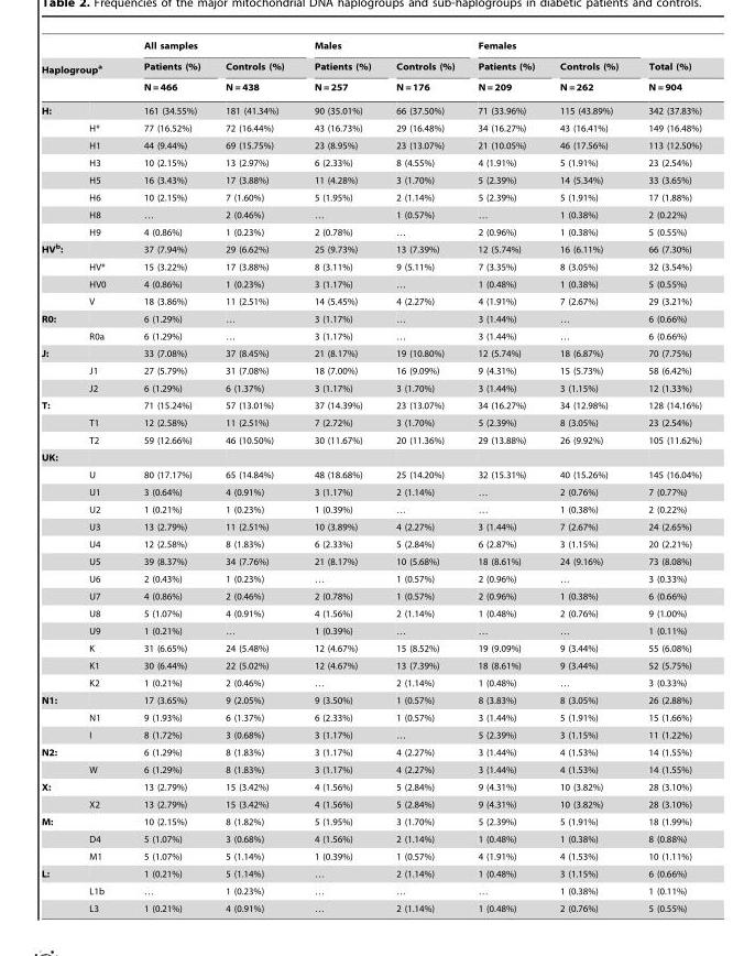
<table><thead><tr><td></td><td></td><td colspan="2">All samples</td><td colspan="2">Males</td><td colspan="2">Females</td><td rowspan="3">Total (%) N = 904</td></tr><tr><td colspan="2">Haplogroup<sup>a</sup></td><td rowspan="2">Patients (%) N = 466</td><td rowspan="2">Controls (%) N = 438</td><td rowspan="2">Patients (%) N = 257</td><td rowspan="2">Controls (%) N = 176</td><td rowspan="2">Patients (%) N = 209</td><td rowspan="2">Controls (%) N = 262</td></tr><tr><td></td><td></td></tr></thead><tbody><tr><td rowspan="8">H:</td><td></td><td>161 (34.55%)</td><td>181 (41.34%)</td><td>90 (35.01%)</td><td>66 (37.50%)</td><td>71 (33.96%)</td><td>115 (43.89%)</td><td>342 (37.83%)</td></tr><tr><td>H*</td><td>77 (16.52%)</td><td>72 (16.44%)</td><td>43 (16.73%)</td><td>29 (16.48%)</td><td>34 (16.27%)</td><td>43 (16.41%)</td><td>149 (16.48%)</td></tr><tr><td>H1</td><td>44 (9.44%)</td><td>69 (15.75%)</td><td>23 (8.95%)</td><td>23 (13.07%)</td><td>21 (10.05%)</td><td>46 (17.56%)</td><td>113 (12.50%)</td></tr><tr><td>H3</td><td>10 (2.15%)</td><td>13 (2.97%)</td><td>6 (2.33%)</td><td>8 (4.55%)</td><td>4 (1.91%)</td><td>5 (1.91%)</td><td>23 (2.54%)</td></tr><tr><td>H5</td><td>16 (3.43%)</td><td>17 (3.88%)</td><td>11 (4.28%)</td><td>3 (1.70%)</td><td>5 (2.39%)</td><td>14 (5.34%)</td><td>33 (3.65%)</td></tr><tr><td>H6</td><td>10 (2.15%)</td><td>7 (1.60%)</td><td>5 (1.95%)</td><td>2 (1.14%)</td><td>5 (2.39%)</td><td>5 (1.91%)</td><td>17 (1.88%)</td></tr><tr><td>H8</td><td>…</td><td>2 (0.46%)</td><td>…</td><td>1 (0.57%)</td><td>…</td><td>1 (0.38%)</td><td>2 (0.22%)</td></tr><tr><td>H9</td><td>4 (0.86%)</td><td>1 (0.23%)</td><td>2 (0.78%)</td><td>…</td><td>2 (0.96%)</td><td>1 (0.38%)</td><td>5 (0.55%)</td></tr><tr><td rowspan="4">HVb:</td><td></td><td>37 (7.94%)</td><td>29 (6.62%)</td><td>25 (9.73%)</td><td>13 (7.39%)</td><td>12 (5.74%)</td><td>16 (6.11%)</td><td>66 (7.30%)</td></tr><tr><td>HV*</td><td>15 (3.22%)</td><td>17 (3.88%)</td><td>8 (3.11%)</td><td>9 (5.11%)</td><td>7 (3.35%)</td><td>8 (3.05%)</td><td>32 (3.54%)</td></tr><tr><td>HV0</td><td>4 (0.86%)</td><td>1 (0.23%)</td><td>3 (1.17%)</td><td>…</td><td>1 (0.48%)</td><td>1 (0.38%)</td><td>5 (0.55%)</td></tr><tr><td>V</td><td>18 (3.86%)</td><td>11 (2.51%)</td><td>14 (5.45%)</td><td>4 (2.27%)</td><td>4 (1.91%)</td><td>7 (2.67%)</td><td>29 (3.21%)</td></tr><tr><td rowspan="2">R0:</td><td></td><td>6 (1.29%)</td><td>…</td><td>3 (1.17%)</td><td>…</td><td>3 (1.44%)</td><td>…</td><td>6 (0.66%)</td></tr><tr><td>R0a</td><td>6 (1.29%)</td><td>…</td><td>3 (1.17%)</td><td>…</td><td>3 (1.44%)</td><td>…</td><td>6 (0.66%)</td></tr><tr><td rowspan="3">J:</td><td></td><td>33 (7.08%)</td><td>37 (8.45%)</td><td>21 (8.17%)</td><td>19 (10.80%)</td><td>12 (5.74%)</td><td>18 (6.87%)</td><td>70 (7.75%)</td></tr><tr><td>J1</td><td>27 (5.79%)</td><td>31 (7.08%)</td><td>18 (7.00%)</td><td>16 (9.09%)</td><td>9 (4.31%)</td><td>15 (5.73%)</td><td>58 (6.42%)</td></tr><tr><td>J2</td><td>6 (1.29%)</td><td>6 (1.37%)</td><td>3 (1.17%)</td><td>3 (1.70%)</td><td>3 (1.44%)</td><td>3 (1.15%)</td><td>12 (1.33%)</td></tr><tr><td rowspan="3">T:</td><td></td><td>71 (15.24%)</td><td>57 (13.01%)</td><td>37 (14.39%)</td><td>23 (13.07%)</td><td>34 (16.27%)</td><td>34 (12.98%)</td><td>128 (14.16%)</td></tr><tr><td>T1</td><td>12 (2.58%)</td><td>11 (2.51%)</td><td>7 (2.72%)</td><td>3 (1.70%)</td><td>5 (2.39%)</td><td>8 (3.05%)</td><td>23 (2.54%)</td></tr><tr><td>T2</td><td>59 (12.66%)</td><td>46 (10.50%)</td><td>30 (11.67%)</td><td>20 (11.36%)</td><td>29 (13.88%)</td><td>26 (9.92%)</td><td>105 (11.62%)</td></tr><tr><td colspan="9">UK:</td></tr><tr><td></td><td>U</td><td>80 (17.17%)</td><td>65 (14.84%)</td><td>48 (18.68%)</td><td>25 (14.20%)</td><td>32 (15.31%)</td><td>40 (15.26%)</td><td>145 (16.04%)</td></tr><tr><td></td><td>U1</td><td>3 (0.64%)</td><td>4 (0.91%)</td><td>3 (1.17%)</td><td>2 (1.14%)</td><td>…</td><td>2 (0.76%)</td><td>7 (0.77%)</td></tr><tr><td></td><td>U2</td><td>1 (0.21%)</td><td>1 (0.23%)</td><td>1 (0.39%)</td><td>…</td><td>…</td><td>1 (0.38%)</td><td>2 (0.22%)</td></tr><tr><td></td><td>U3</td><td>13 (2.79%)</td><td>11 (2.51%)</td><td>10 (3.89%)</td><td>4 (2.27%)</td><td>3 (1.44%)</td><td>7 (2.67%)</td><td>24 (2.65%)</td></tr><tr><td></td><td>U4</td><td>12 (2.58%)</td><td>8 (1.83%)</td><td>6 (2.33%)</td><td>5 (2.84%)</td><td>6 (2.87%)</td><td>3 (1.15%)</td><td>20 (2.21%)</td></tr><tr><td></td><td>U5</td><td>39 (8.37%)</td><td>34 (7.76%)</td><td>21 (8.17%)</td><td>10 (5.68%)</td><td>18 (8.61%)</td><td>24 (9.16%)</td><td>73 (8.08%)</td></tr><tr><td></td><td>U6</td><td>2 (0.43%)</td><td>1 (0.23%)</td><td>…</td><td>1 (0.57%)</td><td>2 (0.96%)</td><td>…</td><td>3 (0.33%)</td></tr><tr><td></td><td>U7</td><td>4 (0.86%)</td><td>2 (0.46%)</td><td>2 (0.78%)</td><td>1 (0.57%)</td><td>2 (0.96%)</td><td>1 (0.38%)</td><td>6 (0.66%)</td></tr><tr><td></td><td>U8</td><td>5 (1.07%)</td><td>4 (0.91%)</td><td>4 (1.56%)</td><td>2 (1.14%)</td><td>1 (0.48%)</td><td>2 (0.76%)</td><td>9 (1.00%)</td></tr><tr><td></td><td>U9</td><td>1 (0.21%)</td><td>…</td><td>1 (0.39%)</td><td>…</td><td>…</td><td>…</td><td>1 (0.11%)</td></tr><tr><td></td><td>K</td><td>31 (6.65%)</td><td>24 (5.48%)</td><td>12 (4.67%)</td><td>15 (8.52%)</td><td>19 (9.09%)</td><td>9 (3.44%)</td><td>55 (6.08%)</td></tr><tr><td></td><td>K1</td><td>30 (6.44%)</td><td>22 (5.02%)</td><td>12 (4.67%)</td><td>13 (7.39%)</td><td>18 (8.61%)</td><td>9 (3.44%)</td><td>52 (5.75%)</td></tr><tr><td></td><td>K2</td><td>1 (0.21%)</td><td>2 (0.46%)</td><td>…</td><td>2 (1.14%)</td><td>1 (0.48%)</td><td>…</td><td>3 (0.33%)</td></tr><tr><td rowspan="3">N1:</td><td></td><td>17 (3.65%)</td><td>9 (2.05%)</td><td>9 (3.50%)</td><td>1 (0.57%)</td><td>8 (3.83%)</td><td>8 (3.05%)</td><td>26 (2.88%)</td></tr><tr><td>N1</td><td>9 (1.93%)</td><td>6 (1.37%)</td><td>6 (2.33%)</td><td>1 (0.57%)</td><td>3 (1.44%)</td><td>5 (1.91%)</td><td>15 (1.66%)</td></tr><tr><td>I</td><td>8 (1.72%)</td><td>3 (0.68%)</td><td>3 (1.17%)</td><td>…</td><td>5 (2.39%)</td><td>3 (1.15%)</td><td>11 (1.22%)</td></tr><tr><td rowspan="2">N2:</td><td></td><td>6 (1.29%)</td><td>8 (1.83%)</td><td>3 (1.17%)</td><td>4 (2.27%)</td><td>3 (1.44%)</td><td>4 (1.53%)</td><td>14 (1.55%)</td></tr><tr><td>W</td><td>6 (1.29%)</td><td>8 (1.83%)</td><td>3 (1.17%)</td><td>4 (2.27%)</td><td>3 (1.44%)</td><td>4 (1.53%)</td><td>14 (1.55%)</td></tr><tr><td rowspan="2">X:</td><td></td><td>13 (2.79%)</td><td>15 (3.42%)</td><td>4 (1.56%)</td><td>5 (2.84%)</td><td>9 (4.31%)</td><td>10 (3.82%)</td><td>28 (3.10%)</td></tr><tr><td>X2</td><td>13 (2.79%)</td><td>15 (3.42%)</td><td>4 (1.56%)</td><td>5 (2.84%)</td><td>9 (4.31%)</td><td>10 (3.82%)</td><td>28 (3.10%)</td></tr><tr><td rowspan="3">M:</td><td></td><td>10 (2.15%)</td><td>8 (1.82%)</td><td>5 (1.95%)</td><td>3 (1.70%)</td><td>5 (2.39%)</td><td>5 (1.91%)</td><td>18 (1.99%)</td></tr><tr><td>D4</td><td>5 (1.07%)</td><td>3 (0.68%)</td><td>4 (1.56%)</td><td>2 (1.14%)</td><td>1 (0.48%)</td><td>1 (0.38%)</td><td>8 (0.88%)</td></tr><tr><td>M1</td><td>5 (1.07%)</td><td>5 (1.14%)</td><td>1 (0.39%)</td><td>1 (0.57%)</td><td>4 (1.91%)</td><td>4 (1.53%)</td><td>10 (1.11%)</td></tr><tr><td rowspan="3">L:</td><td></td><td>1 (0.21%)</td><td>5 (1.14%)</td><td>…</td><td>2 (1.14%)</td><td>1 (0.48%)</td><td>3 (1.15%)</td><td>6 (0.66%)</td></tr><tr><td>L1b</td><td>…</td><td>1 (0.23%)</td><td>…</td><td>…</td><td>…</td><td>1 (0.38%)</td><td>1 (0.11%)</td></tr><tr><td>L3</td><td>1 (0.21%)</td><td>4 (0.91%)</td><td>…</td><td>2 (1.14%)</td><td>1 (0.48%)</td><td>2 (0.76%)</td><td>5 (0.55%)</td></tr></tbody></table>